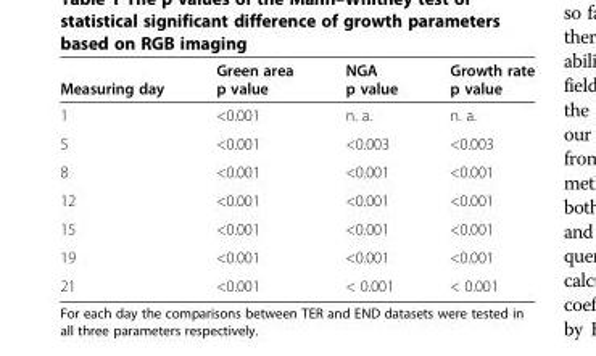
<table><thead><tr><td>Measuring day</td><td>Green area p value</td><td>NGA p value</td><td>Growth rate p value</td></tr></thead><tbody><tr><td>1</td><td>&lt;0.001</td><td>n. a.</td><td>n. a.</td></tr><tr><td>5</td><td>&lt;0.001</td><td>&lt;0.003</td><td>&lt;0.003</td></tr><tr><td>8</td><td>&lt;0.001</td><td>&lt;0.001</td><td>&lt;0.001</td></tr><tr><td>12</td><td>&lt;0.001</td><td>&lt;0.001</td><td>&lt;0.001</td></tr><tr><td>15</td><td>&lt;0.001</td><td>&lt;0.001</td><td>&lt;0.001</td></tr><tr><td>19</td><td>&lt;0.001</td><td>&lt;0.001</td><td>&lt;0.001</td></tr><tr><td>21</td><td>&lt;0.001</td><td>&lt; 0.001</td><td>&lt; 0.001</td></tr></tbody></table>